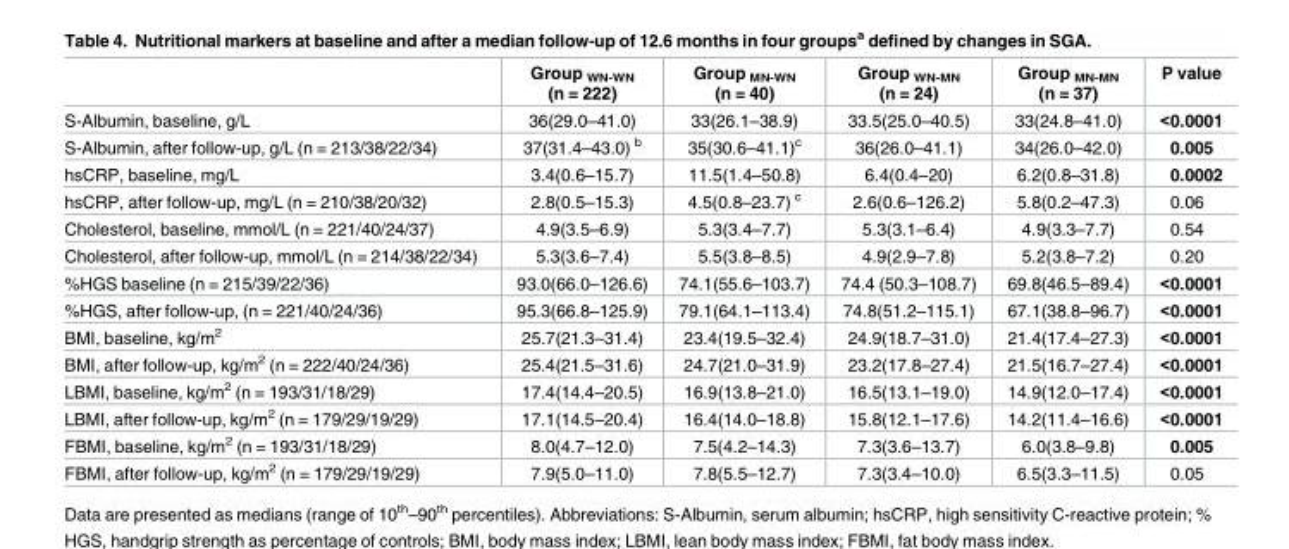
<table><thead><tr><td></td><td>Group <sub>WN-WN</sub> (n = 222)</td><td>Group <sub>MN-WN</sub> (n = 40)</td><td>Group <sub>WN-MN</sub> (n = 24)</td><td>Group <sub>MN-MN</sub> (n = 37)</td><td>P value</td></tr></thead><tbody><tr><td>S-Albumin, baseline, g/L</td><td>36(29.0–41.0)</td><td>33(26.1–38.9)</td><td>33.5(25.0–40.5)</td><td>33(24.8–41.0)</td><td>&lt;0.0001</td></tr><tr><td>S-Albumin, after follow-up, g/L (n = 213/38/22/34)</td><td>37(31.4–43.0) <sup>b</sup></td><td>35(30.6–41.1)<sup>c</sup></td><td>36(26.0–41.1)</td><td>34(26.0–42.0)</td><td>0.005</td></tr><tr><td>hsCRP, baseline, mg/L</td><td>3.4(0.6–15.7)</td><td>11.5(1.4–50.8)</td><td>6.4(0.4–20)</td><td>6.2(0.8–31.8)</td><td>0.0002</td></tr><tr><td>hsCRP, after follow-up, mg/L (n = 210/38/20/32)</td><td>2.8(0.5–15.3)</td><td>4.5(0.8–23.7) <sup>c</sup></td><td>2.6(0.6–126.2)</td><td>5.8(0.2–47.3)</td><td>0.06</td></tr><tr><td>Cholesterol, baseline, mmol/L (n = 221/40/24/37)</td><td>4.9(3.5–6.9)</td><td>5.3(3.4–7.7)</td><td>5.3(3.1–6.4)</td><td>4.9(3.3–7.7)</td><td>0.54</td></tr><tr><td>Cholesterol, after follow-up, mmol/L (n = 214/38/22/34)</td><td>5.3(3.6–7.4)</td><td>5.5(3.8–8.5)</td><td>4.9(2.9–7.8)</td><td>5.2(3.8–7.2)</td><td>0.20</td></tr><tr><td>%HGS baseline (n = 215/39/22/36)</td><td>93.0(66.0–126.6)</td><td>74.1(55.6–103.7)</td><td>74.4 (50.3–108.7)</td><td>69.8(46.5–89.4)</td><td>&lt;0.0001</td></tr><tr><td>%HGS, after follow-up, (n = 221/40/24/36)</td><td>95.3(66.8–125.9)</td><td>79.1(64.1–113.4)</td><td>74.8(51.2–115.1)</td><td>67.1(38.8–96.7)</td><td>&lt;0.0001</td></tr><tr><td>BMI, baseline, kg/m<sup>2</sup></td><td>25.7(21.3–31.4)</td><td>23.4(19.5–32.4)</td><td>24.9(18.7–31.0)</td><td>21.4(17.4–27.3)</td><td>&lt;0.0001</td></tr><tr><td>BMI, after follow-up, kg/m<sup>2</sup> (n = 222/40/24/36)</td><td>25.4(21.5–31.6)</td><td>24.7(21.0–31.9)</td><td>23.2(17.8–27.4)</td><td>21.5(16.7–27.4)</td><td>&lt;0.0001</td></tr><tr><td>LBMI, baseline, kg/m<sup>2</sup> (n = 193/31/18/29)</td><td>17.4(14.4–20.5)</td><td>16.9(13.8–21.0)</td><td>16.5(13.1–19.0)</td><td>14.9(12.0–17.4)</td><td>&lt;0.0001</td></tr><tr><td>LBMI, after follow-up, kg/m<sup>2</sup> (n = 179/29/19/29)</td><td>17.1(14.5–20.4)</td><td>16.4(14.0–18.8)</td><td>15.8(12.1–17.6)</td><td>14.2(11.4–16.6)</td><td>&lt;0.0001</td></tr><tr><td>FBMI, baseline, kg/m<sup>2</sup> (n = 193/31/18/29)</td><td>8.0(4.7–12.0)</td><td>7.5(4.2–14.3)</td><td>7.3(3.6–13.7)</td><td>6.0(3.8–9.8)</td><td>0.005</td></tr><tr><td>FBMI, after follow-up, kg/m<sup>2</sup> (n = 179/29/19/29)</td><td>7.9(5.0–11.0)</td><td>7.8(5.5–12.7)</td><td>7.3(3.4–10.0)</td><td>6.5(3.3–11.5)</td><td>0.05</td></tr></tbody></table>